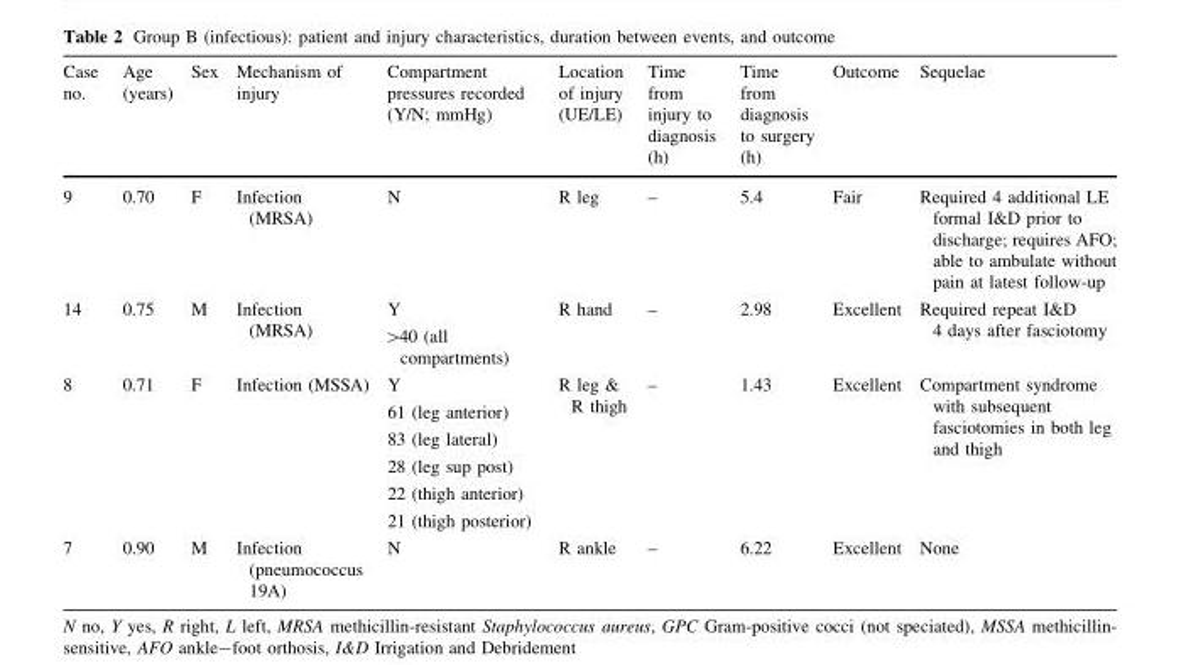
<table><thead><tr><td>Case no.</td><td>Age (years)</td><td>Sex</td><td>Mechanism of injury</td><td>Compartment pressures recorded (Y/N; mmHg)</td><td>Location of injury (UE/LE)</td><td>Time from injury to diagnosis (h)</td><td>Time from diagnosis to surgery (h)</td><td>Outcome</td><td>Sequelae</td></tr></thead><tbody><tr><td>9</td><td>0.70</td><td>F</td><td>Infection (MRSA)</td><td>N</td><td>R leg</td><td>–</td><td>5.4</td><td>Fair</td><td>Required 4 additional LE formal I&amp;D prior to discharge; requires AFO; able to ambulate without pain at latest follow-up</td></tr><tr><td>14</td><td>0.75</td><td>M</td><td>Infection (MRSA)</td><td>Y &gt;40 (all compartments)</td><td>R hand</td><td>–</td><td>2.98</td><td>Excellent</td><td>Required repeat I&amp;D 4 days after fasciotomy</td></tr><tr><td>8</td><td>0.71</td><td>F</td><td>Infection (MSSA)</td><td>Y 61 (leg anterior) 83 (leg lateral) 28 (leg sup post) 22 (thigh anterior) 21 (thigh posterior)</td><td>R leg &amp; R thigh</td><td>–</td><td>1.43</td><td>Excellent</td><td>Compartment syndrome with subsequent fasciotomies in both leg and thigh</td></tr><tr><td>7</td><td>0.90</td><td>M</td><td>Infection (pneumococcus 19A)</td><td>N</td><td>R ankle</td><td>–</td><td>6.22</td><td>Excellent</td><td>None</td></tr></tbody></table>